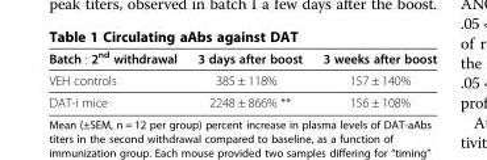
<table><thead><tr><td>Batch : 2<sup>nd</sup> withdrawal</td><td>3 days after boost</td><td>3 weeks after boost</td></tr></thead><tbody><tr><td>VEH controls</td><td>385 ± 118%</td><td>157 ± 140%</td></tr><tr><td>DAT-i mice</td><td>2248 ± 866% **</td><td>156 ± 108%</td></tr></tbody></table>